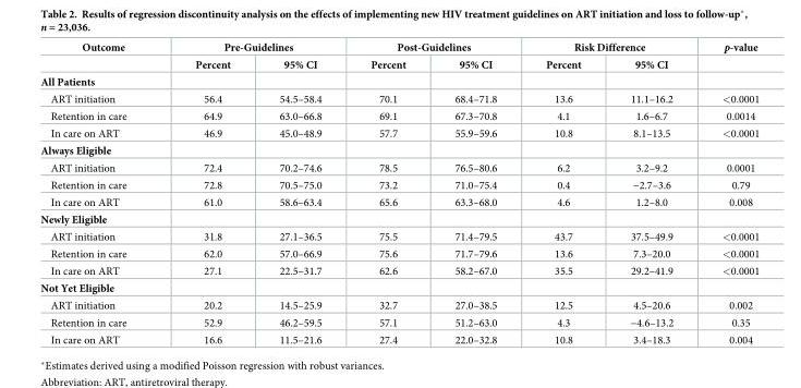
<table><thead><tr><td rowspan="2">Outcome</td><td colspan="2">Pre-Guidelines</td><td colspan="2">Post-Guidelines</td><td colspan="2">Risk Difference</td><td rowspan="2">p-value</td></tr><tr><td>Percent</td><td>95% CI</td><td>Percent</td><td>95% CI</td><td>Percent</td><td>95% CI</td></tr></thead><tbody><tr><td colspan="8">All Patients</td></tr><tr><td>ART initiation</td><td>56.4</td><td>54.5–58.4</td><td>70.1</td><td>68.4–71.8</td><td>13.6</td><td>11.1–16.2</td><td>&lt;0.0001</td></tr><tr><td>Retention in care</td><td>64.9</td><td>63.0–66.8</td><td>69.1</td><td>67.3–70.8</td><td>4.1</td><td>1.6–6.7</td><td>0.0014</td></tr><tr><td>In care on ART</td><td>46.9</td><td>45.0–48.9</td><td>57.7</td><td>55.9–59.6</td><td>10.8</td><td>8.1–13.5</td><td>&lt;0.0001</td></tr><tr><td colspan="8">Always Eligible</td></tr><tr><td>ART initiation</td><td>72.4</td><td>70.2–74.6</td><td>78.5</td><td>76.5–80.6</td><td>6.2</td><td>3.2–9.2</td><td>0.0001</td></tr><tr><td>Retention in care</td><td>72.8</td><td>70.5–75.0</td><td>73.2</td><td>71.0–75.4</td><td>0.4</td><td>−2.7–3.6</td><td>0.79</td></tr><tr><td>In care on ART</td><td>61.0</td><td>58.6–63.4</td><td>65.6</td><td>63.3–68.0</td><td>4.6</td><td>1.2–8.0</td><td>0.008</td></tr><tr><td colspan="8">Newly Eligible</td></tr><tr><td>ART initiation</td><td>31.8</td><td>27.1–36.5</td><td>75.5</td><td>71.4–79.5</td><td>43.7</td><td>37.5–49.9</td><td>&lt;0.0001</td></tr><tr><td>Retention in care</td><td>62.0</td><td>57.0–66.9</td><td>75.6</td><td>71.7–79.6</td><td>13.6</td><td>7.3–20.0</td><td>&lt;0.0001</td></tr><tr><td>In care on ART</td><td>27.1</td><td>22.5–31.7</td><td>62.6</td><td>58.2–67.0</td><td>35.5</td><td>29.2–41.9</td><td>&lt;0.0001</td></tr><tr><td colspan="8">Not Yet Eligible</td></tr><tr><td>ART initiation</td><td>20.2</td><td>14.5–25.9</td><td>32.7</td><td>27.0–38.5</td><td>12.5</td><td>4.5–20.6</td><td>0.002</td></tr><tr><td>Retention in care</td><td>52.9</td><td>46.2–59.5</td><td>57.1</td><td>51.2–63.0</td><td>4.3</td><td>−4.6–13.2</td><td>0.35</td></tr><tr><td>In care on ART</td><td>16.6</td><td>11.5–21.6</td><td>27.4</td><td>22.0–32.8</td><td>10.8</td><td>3.4–18.3</td><td>0.004</td></tr></tbody></table>